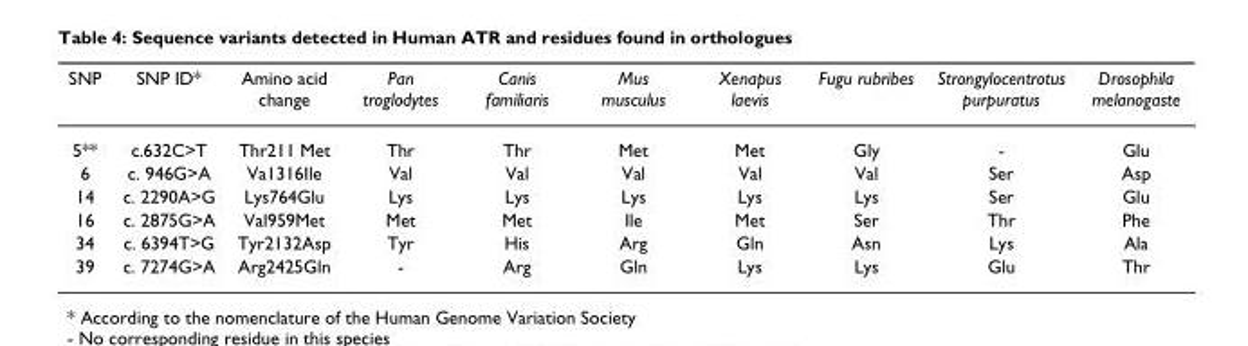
<table><thead><tr><td>SNP</td><td>SNP ID*</td><td>Amino acid change</td><td>Pan troglodytes</td><td>Canis familiaris</td><td>Mus musculus</td><td>Xenapus laevis</td><td>Fugu rubribes</td><td>Strongylocentrotus purpuratus</td><td>Drosophila melanogaste</td></tr></thead><tbody><tr><td>5**</td><td>c.632C&gt;T</td><td>Thr211 Met</td><td>Thr</td><td>Thr</td><td>Met</td><td>Met</td><td>Gly</td><td>-</td><td>Glu</td></tr><tr><td>6</td><td>c. 946G&gt;A</td><td>Va1316Ile</td><td>Val</td><td>Val</td><td>Val</td><td>Val</td><td>Val</td><td>Ser</td><td>Asp</td></tr><tr><td>14</td><td>c. 2290A&gt;G</td><td>Lys764Glu</td><td>Lys</td><td>Lys</td><td>Lys</td><td>Lys</td><td>Lys</td><td>Ser</td><td>Glu</td></tr><tr><td>16</td><td>c. 2875G&gt;A</td><td>Val959Met</td><td>Met</td><td>Met</td><td>Ile</td><td>Met</td><td>Ser</td><td>Thr</td><td>Phe</td></tr><tr><td>34</td><td>c. 6394T&gt;G</td><td>Tyr2132Asp</td><td>Tyr</td><td>His</td><td>Arg</td><td>Gln</td><td>Asn</td><td>Lys</td><td>Ala</td></tr><tr><td>39</td><td>c. 7274G&gt;A</td><td>Arg2425Gln</td><td>-</td><td>Arg</td><td>Gln</td><td>Lys</td><td>Lys</td><td>Glu</td><td>Thr</td></tr></tbody></table>